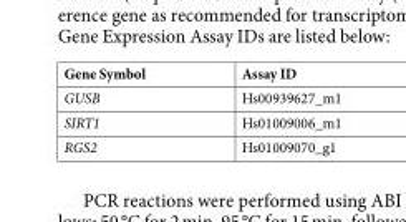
<table><thead><tr><td>Gene Symbol</td><td>Assay ID</td></tr></thead><tbody><tr><td>GUSB</td><td>Hs00939627_m1</td></tr><tr><td>SIRT1</td><td>Hs01009006_m1</td></tr><tr><td>RGS2</td><td>Hs01009070_g1</td></tr></tbody></table>